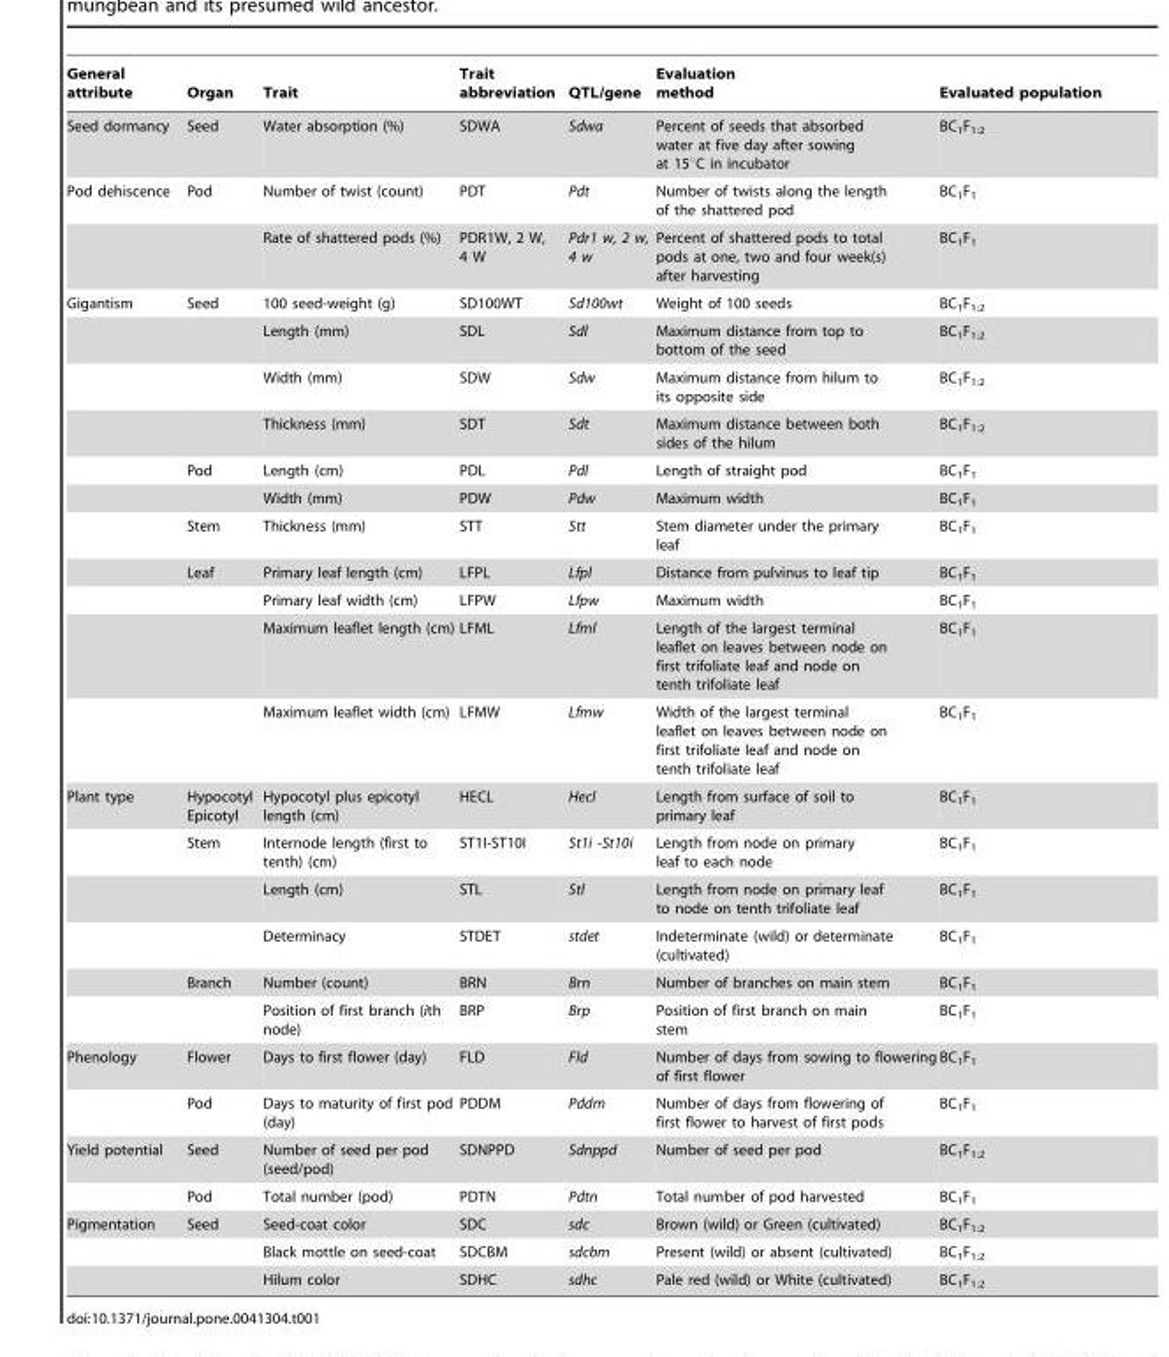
<table><thead><tr><td>General attribute</td><td>Organ</td><td>Trait</td><td>Trait abbreviation</td><td>QTL/gene</td><td>Evaluation method</td><td>Evaluated population</td></tr></thead><tbody><tr><td>Seed dormancy</td><td>Seed</td><td>Water absorption (%)</td><td>SDWA</td><td>Sdwa</td><td>Percent of seeds that absorbed water at five day after sowing at 15°C in incubator</td><td>BC1F1:2</td></tr><tr><td rowspan="2">Pod dehiscence</td><td>Pod</td><td>Number of twist (count)</td><td>PDT</td><td>Pdt</td><td>Number of twists along the length of the shattered pod</td><td>BC<sub>1</sub>F<sub>1</sub></td></tr><tr><td></td><td>Rate of shattered pods (%)</td><td>PDR1W, 2 W, 4 W</td><td>Pdr1 w, 2 w, 4 w</td><td>Percent of shattered pods to total pods at one, two and four week(s) after harvesting</td><td>BC<sub>1</sub>F<sub>1</sub></td></tr><tr><td rowspan="11">Gigantism</td><td>Seed</td><td>100 seed-weight (g)</td><td>SD100WT</td><td>Sd100wt</td><td>Weight of 100 seeds</td><td>BC1F1:2</td></tr><tr><td></td><td>Length (mm)</td><td>SDL</td><td>Sdl</td><td>Maximum distance from top to bottom of the seed</td><td>BC1F1:2</td></tr><tr><td></td><td>Width (mm)</td><td>SDW</td><td>Sdw</td><td>Maximum distance from hilum to its opposite side</td><td>BC1F1:2</td></tr><tr><td></td><td>Thickness (mm)</td><td>SDT</td><td>Sdt</td><td>Maximum distance between both sides of the hilum</td><td>BC1F1:2</td></tr><tr><td>Pod</td><td>Length (cm)</td><td>PDL</td><td>Pdl</td><td>Length of straight pod</td><td>BC<sub>1</sub>F<sub>1</sub></td></tr><tr><td></td><td>Width (mm)</td><td>PDW</td><td>Pdw</td><td>Maximum width</td><td>BC<sub>1</sub>F<sub>1</sub></td></tr><tr><td>Stem</td><td>Thickness (mm)</td><td>STT</td><td>Stt</td><td>Stem diameter under the primary leaf</td><td>BC<sub>1</sub>F<sub>1</sub></td></tr><tr><td>Leaf</td><td>Primary leaf length (cm)</td><td>LFPL</td><td>Lfpl</td><td>Distance from pulvinus to leaf tip</td><td>BC<sub>1</sub>F<sub>1</sub></td></tr><tr><td></td><td>Primary leaf width (cm)</td><td>LFPW</td><td>Lfpw</td><td>Maximum width</td><td>BC<sub>1</sub>F<sub>1</sub></td></tr><tr><td></td><td>Maximum leaflet length (cm)</td><td>LFML</td><td>Lfml</td><td>Length of the largest terminal leaflet on leaves between node on first trifoliate leaf and node on tenth trifoliate leaf</td><td>BC<sub>1</sub>F<sub>1</sub></td></tr><tr><td></td><td>Maximum leaflet width (cm)</td><td>LFMW</td><td>Lfmw</td><td>Width of the largest terminal leaflet on leaves between node on first trifoliate leaf and node on tenth trifoliate leaf</td><td>BC<sub>1</sub>F<sub>1</sub></td></tr><tr><td rowspan="6">Plant type</td><td>Hypocotyl Epicotyl</td><td>Hypocotyl plus epicotyl length (cm)</td><td>HECL</td><td>Hecl</td><td>Length from surface of soil to primary leaf</td><td>BC<sub>1</sub>F<sub>1</sub></td></tr><tr><td>Stem</td><td>Internode length (first to tenth) (cm)</td><td>ST1I-ST10I</td><td>St1i -St10i</td><td>Length from node on primary leaf to each node</td><td>BC<sub>1</sub>F<sub>1</sub></td></tr><tr><td></td><td>Length (cm)</td><td>STL</td><td>Stl</td><td>Length from node on primary leaf to node on tenth trifoliate leaf</td><td>BC<sub>1</sub>F<sub>1</sub></td></tr><tr><td></td><td>Determinacy</td><td>STDET</td><td>stdet</td><td>Indeterminate (wild) or determinate (cultivated)</td><td>BC<sub>1</sub>F<sub>1</sub></td></tr><tr><td>Branch</td><td>Number (count)</td><td>BRN</td><td>Brn</td><td>Number of branches on main stem</td><td>BC<sub>1</sub>F<sub>1</sub></td></tr><tr><td></td><td>Position of first branch (ith node)</td><td>BRP</td><td>Brp</td><td>Position of first branch on main stem</td><td>BC<sub>1</sub>F<sub>1</sub></td></tr><tr><td rowspan="2">Phenology</td><td>Flower</td><td>Days to first flower (day)</td><td>FLD</td><td>Fld</td><td>Number of days from sowing to flowering of first flower</td><td>BC<sub>1</sub>F<sub>1</sub></td></tr><tr><td>Pod</td><td>Days to maturity of first pod (day)</td><td>PDDM</td><td>Pddm</td><td>Number of days from flowering of first flower to harvest of first pods</td><td>BC<sub>1</sub>F<sub>1</sub></td></tr><tr><td rowspan="2">Yield potential</td><td>Seed</td><td>Number of seed per pod (seed/pod)</td><td>SDNPPD</td><td>Sdnppd</td><td>Number of seed per pod</td><td>BC1F1:2</td></tr><tr><td>Pod</td><td>Total number (pod)</td><td>PDTN</td><td>Pdtn</td><td>Total number of pod harvested</td><td>BC<sub>1</sub>F<sub>1</sub></td></tr><tr><td rowspan="3">Pigmentation</td><td>Seed</td><td>Seed-coat color</td><td>SDC</td><td>sdc</td><td>Brown (wild) or Green (cultivated)</td><td>BC1F1:2</td></tr><tr><td></td><td>Black mottle on seed-coat</td><td>SDCBM</td><td>sdcbm</td><td>Present (wild) or absent (cultivated)</td><td>BC1F1:2</td></tr><tr><td></td><td>Hilum color</td><td>SDHC</td><td>sdhc</td><td>Pale red (wild) or White (cultivated)</td><td>BC1F1:2</td></tr></tbody></table>